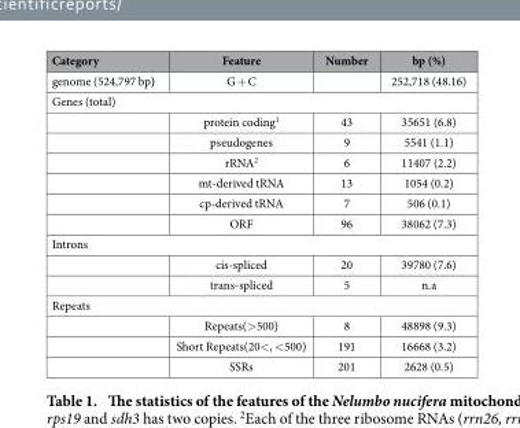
<table><thead><tr><td>Category</td><td>Feature</td><td>Number</td><td>bp (%)</td></tr></thead><tbody><tr><td>genome (524,797 bp)</td><td>G + C</td><td></td><td>252,718 (48.16)</td></tr><tr><td colspan="4">Genes (total)</td></tr><tr><td></td><td>protein coding<sup>1</sup></td><td>43</td><td>35651 (6.8)</td></tr><tr><td></td><td>pseudogenes</td><td>9</td><td>5541 (1.1)</td></tr><tr><td></td><td>rRNA<sup>2</sup></td><td>6</td><td>11407 (2.2)</td></tr><tr><td></td><td>mt-derived tRNA</td><td>13</td><td>1054 (0.2)</td></tr><tr><td></td><td>cp-derived tRNA</td><td>7</td><td>506 (0.1)</td></tr><tr><td></td><td>ORF</td><td>96</td><td>38062 (7.3)</td></tr><tr><td colspan="4">Introns</td></tr><tr><td></td><td>cis-spliced</td><td>20</td><td>39780 (7.6)</td></tr><tr><td></td><td>trans-spliced</td><td>5</td><td>n.a</td></tr><tr><td colspan="4">Repeats</td></tr><tr><td></td><td>Repeats(&gt;500)</td><td>8</td><td>48898 (9.3)</td></tr><tr><td></td><td>Short Repeats(20&lt;, &lt;500)</td><td>191</td><td>16668 (3.2)</td></tr><tr><td></td><td>SSRs</td><td>201</td><td>2628 (0.5)</td></tr></tbody></table>